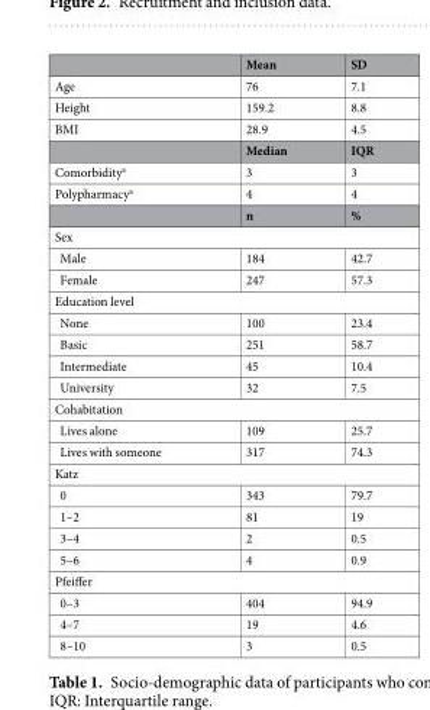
<table><thead><tr><td></td><td>Mean</td><td>SD</td></tr></thead><tbody><tr><td>Age</td><td>76</td><td>7.1</td></tr><tr><td>Height</td><td>159.2</td><td>8.8</td></tr><tr><td rowspan="2">BMI</td><td>28.9</td><td>4.5</td></tr><tr><td>Median</td><td>IQR</td></tr><tr><td>Comorbidity<sup>a</sup></td><td>3</td><td>3</td></tr><tr><td rowspan="2">Polypharmacy<sup>a</sup></td><td>4</td><td>4</td></tr><tr><td>n</td><td>%</td></tr><tr><td colspan="3">Sex</td></tr><tr><td>Male</td><td>184</td><td>42.7</td></tr><tr><td>Female</td><td>247</td><td>57.3</td></tr><tr><td colspan="3">Education level</td></tr><tr><td>None</td><td>100</td><td>23.4</td></tr><tr><td>Basic</td><td>251</td><td>58.7</td></tr><tr><td>Intermediate</td><td>45</td><td>10.4</td></tr><tr><td>University</td><td>32</td><td>7.5</td></tr><tr><td colspan="3">Cohabitation</td></tr><tr><td>Lives alone</td><td>109</td><td>25.7</td></tr><tr><td>Lives with someone</td><td>317</td><td>74.3</td></tr><tr><td colspan="3">Katz</td></tr><tr><td>0</td><td>343</td><td>79.7</td></tr><tr><td>1–2</td><td>81</td><td>19</td></tr><tr><td>3–4</td><td>2</td><td>0.5</td></tr><tr><td>5–6</td><td>4</td><td>0.9</td></tr><tr><td colspan="3">Pfeiffer</td></tr><tr><td>0–3</td><td>404</td><td>94.9</td></tr><tr><td>4–7</td><td>19</td><td>4.6</td></tr><tr><td>8–10</td><td>3</td><td>0.5</td></tr></tbody></table>